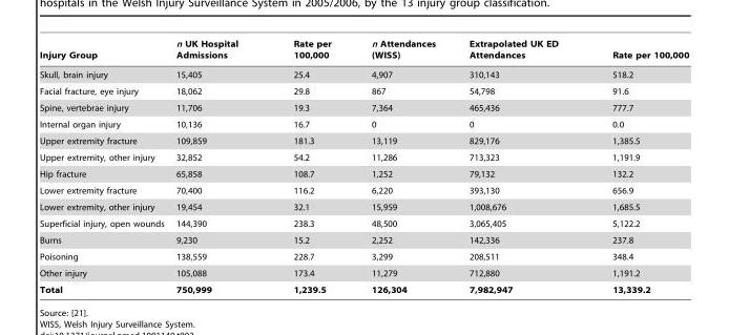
<table><thead><tr><td>Injury Group</td><td>n UK Hospital Admissions</td><td>Rate per 100,000</td><td>n Attendances (WISS)</td><td>Extrapolated UK ED Attendances</td><td>Rate per 100,000</td></tr></thead><tbody><tr><td>Skull, brain injury</td><td>15,405</td><td>25.4</td><td>4,907</td><td>310,143</td><td>518.2</td></tr><tr><td>Facial fracture, eye injury</td><td>18,062</td><td>29.8</td><td>867</td><td>54,798</td><td>91.6</td></tr><tr><td>Spine, vertebrae injury</td><td>11,706</td><td>19.3</td><td>7,364</td><td>465,436</td><td>777.7</td></tr><tr><td>Internal organ injury</td><td>10,136</td><td>16.7</td><td>0</td><td>0</td><td>0.0</td></tr><tr><td>Upper extremity fracture</td><td>109,859</td><td>181.3</td><td>13,119</td><td>829,176</td><td>1,385.5</td></tr><tr><td>Upper extremity, other injury</td><td>32,852</td><td>54.2</td><td>11,286</td><td>713,323</td><td>1,191.9</td></tr><tr><td>Hip fracture</td><td>65,858</td><td>108.7</td><td>1,252</td><td>79,132</td><td>132.2</td></tr><tr><td>Lower extremity fracture</td><td>70,400</td><td>116.2</td><td>6,220</td><td>393,130</td><td>656.9</td></tr><tr><td>Lower extremity, other injury</td><td>19,454</td><td>32.1</td><td>15,959</td><td>1,008,676</td><td>1,685.5</td></tr><tr><td>Superficial injury, open wounds</td><td>144,390</td><td>238.3</td><td>48,500</td><td>3,065,405</td><td>5,122.2</td></tr><tr><td>Burns</td><td>9,230</td><td>15.2</td><td>2,252</td><td>142,336</td><td>237.8</td></tr><tr><td>Poisoning</td><td>138,559</td><td>228.7</td><td>3,299</td><td>208,511</td><td>348.4</td></tr><tr><td>Other injury</td><td>105,088</td><td>173.4</td><td>11,279</td><td>712,880</td><td>1,191.2</td></tr><tr><td>Total</td><td>750,999</td><td>1,239.5</td><td>126,304</td><td>7,982,947</td><td>13,339.2</td></tr></tbody></table>